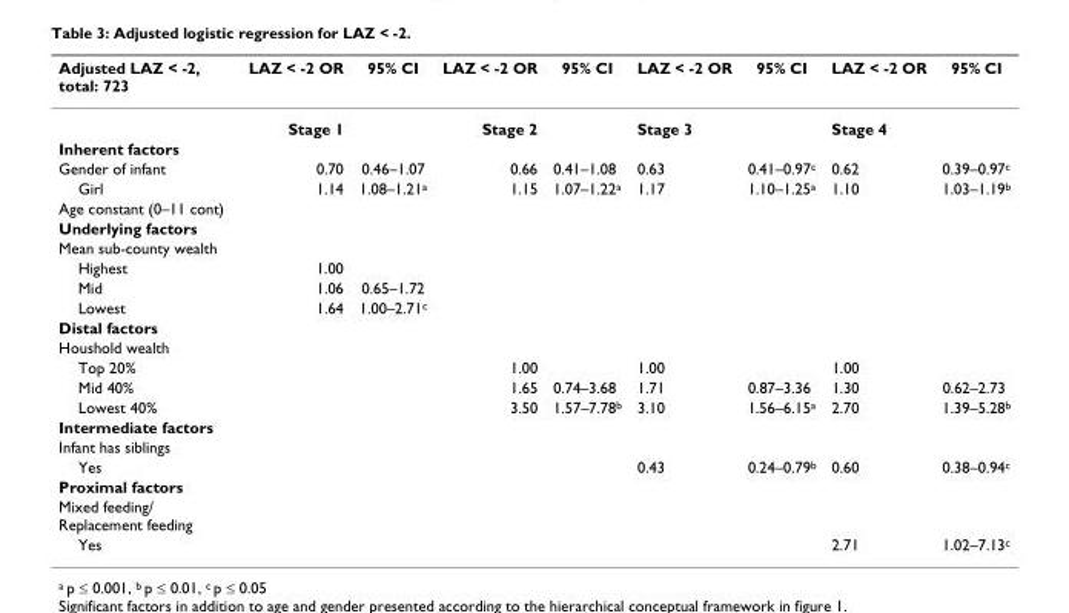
<table><thead><tr><td>Adjusted LAZ &lt; -2, total: 723</td><td>LAZ &lt; -2 OR</td><td>95% CI</td><td>LAZ &lt; -2 OR</td><td>95% CI</td><td>LAZ &lt; -2 OR</td><td>95% CI</td><td>LAZ &lt; -2 OR</td><td>95% CI</td></tr></thead><tbody><tr><td></td><td>Stage 1</td><td></td><td>Stage 2</td><td></td><td>Stage 3</td><td></td><td>Stage 4</td><td></td></tr><tr><td colspan="9">Inherent factors</td></tr><tr><td>Gender of infant</td><td>0.70</td><td>0.46–1.07</td><td>0.66</td><td>0.41–1.08</td><td>0.63</td><td>0.41–0.97<sup>c</sup></td><td>0.62</td><td>0.39–0.97<sup>c</sup></td></tr><tr><td>Girl</td><td>1.14</td><td>1.08–1.21<sup>a</sup></td><td>1.15</td><td>1.07–1.22<sup>a</sup></td><td>1.17</td><td>1.10–1.25<sup>a</sup></td><td>1.10</td><td>1.03–1.19<sup>b</sup></td></tr><tr><td colspan="9">Age constant (0–11 cont)</td></tr><tr><td colspan="9">Underlying factors</td></tr><tr><td colspan="9">Mean sub-county wealth</td></tr><tr><td>Highest</td><td>1.00</td><td></td><td></td><td></td><td></td><td></td><td></td><td></td></tr><tr><td>Mid</td><td>1.06</td><td>0.65–1.72</td><td></td><td></td><td></td><td></td><td></td><td></td></tr><tr><td>Lowest</td><td>1.64</td><td>1.00–2.71<sup>c</sup></td><td></td><td></td><td></td><td></td><td></td><td></td></tr><tr><td colspan="9">Distal factors</td></tr><tr><td colspan="9">Houshold wealth</td></tr><tr><td>Top 20%</td><td></td><td></td><td>1.00</td><td></td><td>1.00</td><td></td><td>1.00</td><td></td></tr><tr><td>Mid 40%</td><td></td><td></td><td>1.65</td><td>0.74–3.68</td><td>1.71</td><td>0.87–3.36</td><td>1.30</td><td>0.62–2.73</td></tr><tr><td>Lowest 40%</td><td></td><td></td><td>3.50</td><td>1.57–7.78<sup>b</sup></td><td>3.10</td><td>1.56–6.15<sup>a</sup></td><td>2.70</td><td>1.39–5.28<sup>b</sup></td></tr><tr><td colspan="9">Intermediate factors</td></tr><tr><td colspan="9">Infant has siblings</td></tr><tr><td>Yes</td><td></td><td></td><td></td><td></td><td>0.43</td><td>0.24–0.79<sup>b</sup></td><td>0.60</td><td>0.38–0.94<sup>c</sup></td></tr><tr><td colspan="9">Proximal factors</td></tr><tr><td colspan="9">Mixed feeding/ Replacement feeding</td></tr><tr><td>Yes</td><td></td><td></td><td></td><td></td><td></td><td></td><td>2.71</td><td>1.02–7.13<sup>c</sup></td></tr></tbody></table>